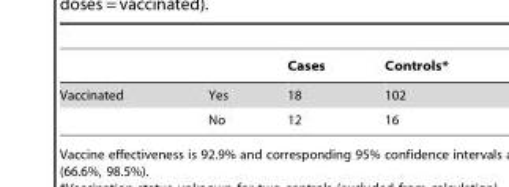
<table><thead><tr><td></td><td></td><td>Cases</td><td>Controls*</td></tr></thead><tbody><tr><td rowspan="2">Vaccinated</td><td>Yes</td><td>18</td><td>102</td></tr><tr><td>No</td><td>12</td><td>16</td></tr></tbody></table>